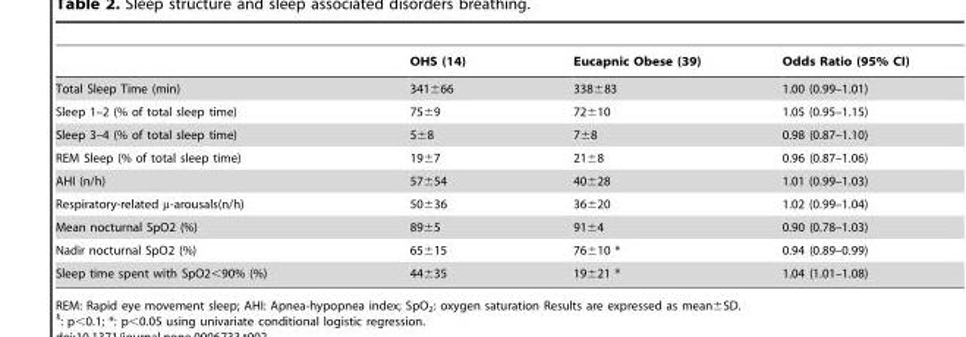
<table><thead><tr><td></td><td>OHS (14)</td><td>Eucapnic Obese (39)</td><td>Odds Ratio (95% CI)</td></tr></thead><tbody><tr><td>Total Sleep Time (min)</td><td>341±66</td><td>338±83</td><td>1.00 (0.99–1.01)</td></tr><tr><td>Sleep 1–2 (% of total sleep time)</td><td>75±9</td><td>72±10</td><td>1.05 (0.95–1.15)</td></tr><tr><td>Sleep 3–4 (% of total sleep time)</td><td>5±8</td><td>7±8</td><td>0.98 (0.87–1.10)</td></tr><tr><td>REM Sleep (% of total sleep time)</td><td>19±7</td><td>21±8</td><td>0.96 (0.87–1.06)</td></tr><tr><td>AHI (n/h)</td><td>57±54</td><td>40±28</td><td>1.01 (0.99–1.03)</td></tr><tr><td>Respiratory-related μ-arousals(n/h)</td><td>50±36</td><td>36±20</td><td>1.02 (0.99–1.04)</td></tr><tr><td>Mean nocturnal SpO2 (%)</td><td>89±5</td><td>91±4</td><td>0.90 (0.78–1.03)</td></tr><tr><td>Nadir nocturnal SpO2 (%)</td><td>65±15</td><td>76±10 *</td><td>0.94 (0.89–0.99)</td></tr><tr><td>Sleep time spent with SpO2&lt;90% (%)</td><td>44±35</td><td>19±21 *</td><td>1.04 (1.01–1.08)</td></tr></tbody></table>